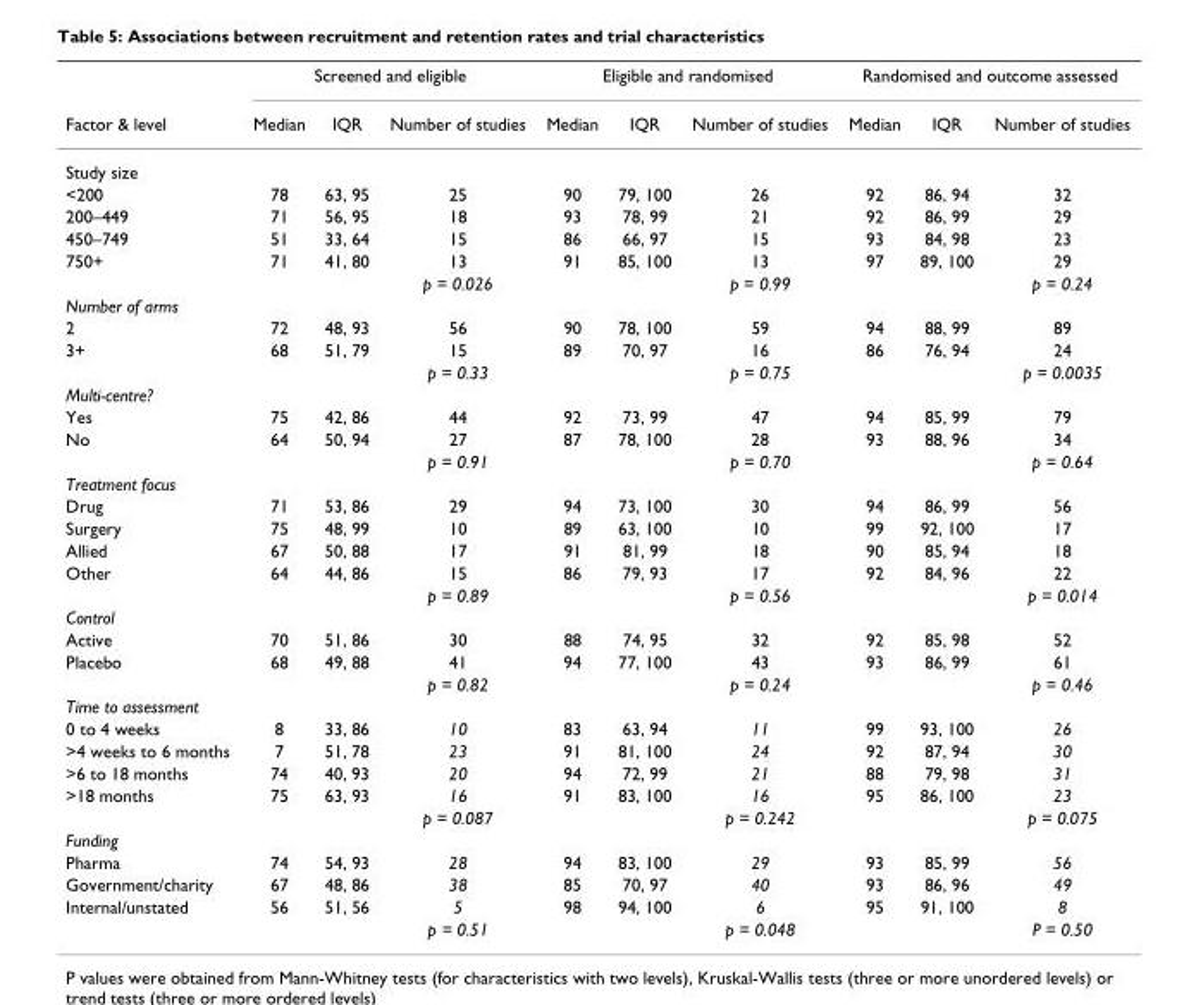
<table><thead><tr><td rowspan="2">Factor &amp; level</td><td colspan="3">Screened and eligible</td><td colspan="3">Eligible and randomised</td><td colspan="3">Randomised and outcome assessed</td></tr><tr><td>Median</td><td>IQR</td><td>Number of studies</td><td>Median</td><td>IQR</td><td>Number of studies</td><td>Median</td><td>IQR</td><td>Number of studies</td></tr></thead><tbody><tr><td colspan="10">Study size</td></tr><tr><td>&lt;200</td><td>78</td><td>63, 95</td><td>25</td><td>90</td><td>79, 100</td><td>26</td><td>92</td><td>86, 94</td><td>32</td></tr><tr><td>200–449</td><td>71</td><td>56, 95</td><td>18</td><td>93</td><td>78, 99</td><td>21</td><td>92</td><td>86, 99</td><td>29</td></tr><tr><td>450–749</td><td>51</td><td>33, 64</td><td>15</td><td>86</td><td>66, 97</td><td>15</td><td>93</td><td>84, 98</td><td>23</td></tr><tr><td rowspan="2">750+</td><td>71</td><td>41, 80</td><td>13</td><td>91</td><td>85, 100</td><td>13</td><td>97</td><td>89, 100</td><td>29</td></tr><tr><td></td><td></td><td>p = 0.026</td><td></td><td></td><td>p = 0.99</td><td></td><td></td><td>p = 0.24</td></tr><tr><td colspan="10">Number of arms</td></tr><tr><td>2</td><td>72</td><td>48, 93</td><td>56</td><td>90</td><td>78, 100</td><td>59</td><td>94</td><td>88, 99</td><td>89</td></tr><tr><td rowspan="2">3+</td><td>68</td><td>51, 79</td><td>15</td><td>89</td><td>70, 97</td><td>16</td><td>86</td><td>76, 94</td><td>24</td></tr><tr><td></td><td></td><td>p = 0.33</td><td></td><td></td><td>p = 0.75</td><td></td><td></td><td>p = 0.0035</td></tr><tr><td colspan="10">Multi-centre?</td></tr><tr><td>Yes</td><td>75</td><td>42, 86</td><td>44</td><td>92</td><td>73, 99</td><td>47</td><td>94</td><td>85, 99</td><td>79</td></tr><tr><td rowspan="2">No</td><td>64</td><td>50, 94</td><td>27</td><td>87</td><td>78, 100</td><td>28</td><td>93</td><td>88, 96</td><td>34</td></tr><tr><td></td><td></td><td>p = 0.91</td><td></td><td></td><td>p = 0.70</td><td></td><td></td><td>p = 0.64</td></tr><tr><td colspan="10">Treatment focus</td></tr><tr><td>Drug</td><td>71</td><td>53, 86</td><td>29</td><td>94</td><td>73, 100</td><td>30</td><td>94</td><td>86, 99</td><td>56</td></tr><tr><td>Surgery</td><td>75</td><td>48, 99</td><td>10</td><td>89</td><td>63, 100</td><td>10</td><td>99</td><td>92, 100</td><td>17</td></tr><tr><td>Allied</td><td>67</td><td>50, 88</td><td>17</td><td>91</td><td>81, 99</td><td>18</td><td>90</td><td>85, 94</td><td>18</td></tr><tr><td rowspan="2">Other</td><td>64</td><td>44, 86</td><td>15</td><td>86</td><td>79, 93</td><td>17</td><td>92</td><td>84, 96</td><td>22</td></tr><tr><td></td><td></td><td>p = 0.89</td><td></td><td></td><td>p = 0.56</td><td></td><td></td><td>p = 0.014</td></tr><tr><td colspan="10">Control</td></tr><tr><td>Active</td><td>70</td><td>51, 86</td><td>30</td><td>88</td><td>74, 95</td><td>32</td><td>92</td><td>85, 98</td><td>52</td></tr><tr><td rowspan="2">Placebo</td><td>68</td><td>49, 88</td><td>41</td><td>94</td><td>77, 100</td><td>43</td><td>93</td><td>86, 99</td><td>61</td></tr><tr><td></td><td></td><td>p = 0.82</td><td></td><td></td><td>p = 0.24</td><td></td><td></td><td>p = 0.46</td></tr><tr><td colspan="10">Time to assessment</td></tr><tr><td>0 to 4 weeks</td><td>8</td><td>33, 86</td><td>10</td><td>83</td><td>63, 94</td><td>11</td><td>99</td><td>93, 100</td><td>26</td></tr><tr><td>&gt;4 weeks to 6 months</td><td>7</td><td>51, 78</td><td>23</td><td>91</td><td>81, 100</td><td>24</td><td>92</td><td>87, 94</td><td>30</td></tr><tr><td>&gt;6 to 18 months</td><td>74</td><td>40, 93</td><td>20</td><td>94</td><td>72, 99</td><td>21</td><td>88</td><td>79, 98</td><td>31</td></tr><tr><td rowspan="2">&gt;18 months</td><td>75</td><td>63, 93</td><td>16</td><td>91</td><td>83, 100</td><td>16</td><td>95</td><td>86, 100</td><td>23</td></tr><tr><td></td><td></td><td>p = 0.087</td><td></td><td></td><td>p = 0.242</td><td></td><td></td><td>p = 0.075</td></tr><tr><td colspan="10">Funding</td></tr><tr><td>Pharma</td><td>74</td><td>54, 93</td><td>28</td><td>94</td><td>83, 100</td><td>29</td><td>93</td><td>85, 99</td><td>56</td></tr><tr><td>Government/charity</td><td>67</td><td>48, 86</td><td>38</td><td>85</td><td>70, 97</td><td>40</td><td>93</td><td>86, 96</td><td>49</td></tr><tr><td rowspan="2">Internal/unstated</td><td>56</td><td>51, 56</td><td>5</td><td>98</td><td>94, 100</td><td>6</td><td>95</td><td>91, 100</td><td>8</td></tr><tr><td></td><td></td><td>p = 0.51</td><td></td><td></td><td>p = 0.048</td><td></td><td></td><td>P = 0.50</td></tr></tbody></table>